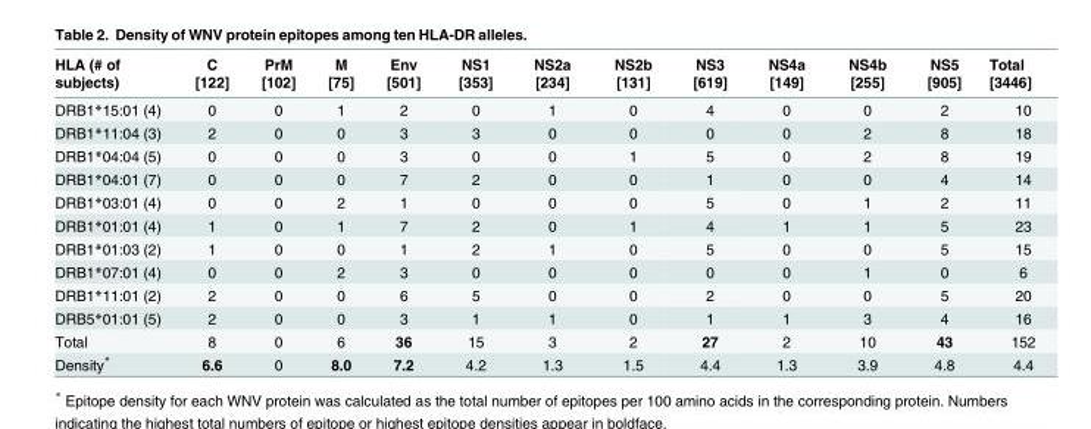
<table><thead><tr><td>HLA (# of subjects)</td><td>C [122]</td><td>PrM [102]</td><td>M [75]</td><td>Env [501]</td><td>NS1 [353]</td><td>NS2a [234]</td><td>NS2b [131]</td><td>NS3 [619]</td><td>NS4a [149]</td><td>NS4b [255]</td><td>NS5 [905]</td><td>Total [3446]</td></tr></thead><tbody><tr><td>DRB1*15:01 (4)</td><td>0</td><td>0</td><td>1</td><td>2</td><td>0</td><td>1</td><td>0</td><td>4</td><td>0</td><td>0</td><td>2</td><td>10</td></tr><tr><td>DRB1*11:04 (3)</td><td>2</td><td>0</td><td>0</td><td>3</td><td>3</td><td>0</td><td>0</td><td>0</td><td>0</td><td>2</td><td>8</td><td>18</td></tr><tr><td>DRB1*04:04 (5)</td><td>0</td><td>0</td><td>0</td><td>3</td><td>0</td><td>0</td><td>1</td><td>5</td><td>0</td><td>2</td><td>8</td><td>19</td></tr><tr><td>DRB1*04:01 (7)</td><td>0</td><td>0</td><td>0</td><td>7</td><td>2</td><td>0</td><td>0</td><td>1</td><td>0</td><td>0</td><td>4</td><td>14</td></tr><tr><td>DRB1*03:01 (4)</td><td>0</td><td>0</td><td>2</td><td>1</td><td>0</td><td>0</td><td>0</td><td>5</td><td>0</td><td>1</td><td>2</td><td>11</td></tr><tr><td>DRB1*01:01 (4)</td><td>1</td><td>0</td><td>1</td><td>7</td><td>2</td><td>0</td><td>1</td><td>4</td><td>1</td><td>1</td><td>5</td><td>23</td></tr><tr><td>DRB1*01:03 (2)</td><td>1</td><td>0</td><td>0</td><td>1</td><td>2</td><td>1</td><td>0</td><td>5</td><td>0</td><td>0</td><td>5</td><td>15</td></tr><tr><td>DRB1*07:01 (4)</td><td>0</td><td>0</td><td>2</td><td>3</td><td>0</td><td>0</td><td>0</td><td>0</td><td>0</td><td>1</td><td>0</td><td>6</td></tr><tr><td>DRB1*11:01 (2)</td><td>2</td><td>0</td><td>0</td><td>6</td><td>5</td><td>0</td><td>0</td><td>2</td><td>0</td><td>0</td><td>5</td><td>20</td></tr><tr><td>DRB5*01:01 (5)</td><td>2</td><td>0</td><td>0</td><td>3</td><td>1</td><td>1</td><td>0</td><td>1</td><td>1</td><td>3</td><td>4</td><td>16</td></tr><tr><td>Total</td><td>8</td><td>0</td><td>6</td><td>36</td><td>15</td><td>3</td><td>2</td><td>27</td><td>2</td><td>10</td><td>43</td><td>152</td></tr><tr><td>Density*</td><td>6.6</td><td>0</td><td>8.0</td><td>7.2</td><td>4.2</td><td>1.3</td><td>1.5</td><td>4.4</td><td>1.3</td><td>3.9</td><td>4.8</td><td>4.4</td></tr></tbody></table>